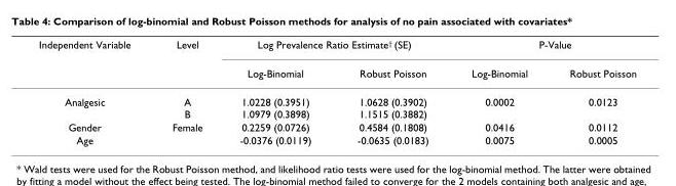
<table><thead><tr><td rowspan="2">Independent Variable</td><td rowspan="2">Level</td><td colspan="2">Log Prevalence Ratio Estimate<sup>†</sup> (SE)</td><td colspan="2">P-Value</td></tr><tr><td>Log-Binomial</td><td>Robust Poisson</td><td>Log-Binomial</td><td>Robust Poisson</td></tr></thead><tbody><tr><td>Analgesic</td><td>A B</td><td>1.0228 (0.3951) 1.0979 (0.3898)</td><td>1.0628 (0.3902) 1.1515 (0.3882)</td><td>0.0002</td><td>0.0123</td></tr><tr><td>Gender</td><td>Female</td><td>0.2259 (0.0726)</td><td>0.4584 (0.1808)</td><td>0.0416</td><td>0.0112</td></tr><tr><td>Age</td><td></td><td>-0.0376 (0.0119)</td><td>-0.0635 (0.0183)</td><td>0.0075</td><td>0.0005</td></tr></tbody></table>